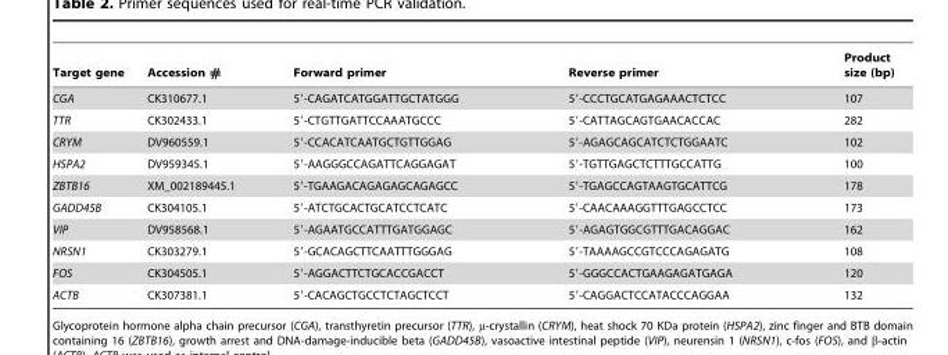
<table><thead><tr><td>Target gene</td><td>Accession #</td><td>Forward primer</td><td>Reverse primer</td><td>Product size (bp)</td></tr></thead><tbody><tr><td>CGA</td><td>CK310677.1</td><td>5′-CAGATCATGGATTGCTATGGG</td><td>5′-CCCTGCATGAGAAACTCTCC</td><td>107</td></tr><tr><td>TTR</td><td>CK302433.1</td><td>5′-CTGTTGATTCCAAATGCCC</td><td>5′-CATTAGCAGTGAACACCAC</td><td>282</td></tr><tr><td>CRYM</td><td>DV960559.1</td><td>5′-CCACATCAATGCTGTTGGAG</td><td>5′-AGAGCAGCATCTCTGGAATC</td><td>102</td></tr><tr><td>HSPA2</td><td>DV959345.1</td><td>5′-AAGGGCCAGATTCAGGAGAT</td><td>5′-TGTTGAGCTCTTTGCCATTG</td><td>100</td></tr><tr><td>ZBTB16</td><td>XM_002189445.1</td><td>5′-TGAAGACAGAGAGCAGAGCC</td><td>5′-TGAGCCAGTAAGTGCATTCG</td><td>178</td></tr><tr><td>GADD45B</td><td>CK304105.1</td><td>5′-ATCTGCACTGCATCCTCATC</td><td>5′-CAACAAAGGTTTGAGCCTCC</td><td>173</td></tr><tr><td>VIP</td><td>DV958568.1</td><td>5′-AGAATGCCATTTGATGGAGC</td><td>5′-AGAGTGGCGTTTGACAGGAC</td><td>162</td></tr><tr><td>NRSN1</td><td>CK303279.1</td><td>5′-GCACAGCTTCAATTTGGGAG</td><td>5′-TAAAAGCCGTCCCAGAGATG</td><td>108</td></tr><tr><td>FOS</td><td>CK304505.1</td><td>5′-AGGACTTCTGCACCGACCT</td><td>5′-GGGCCACTGAAGAGATGAGA</td><td>120</td></tr><tr><td>ACTB</td><td>CK307381.1</td><td>5′-CACAGCTGCCTCTAGCTCCT</td><td>5′-CAGGACTCCATACCCAGGAA</td><td>132</td></tr></tbody></table>